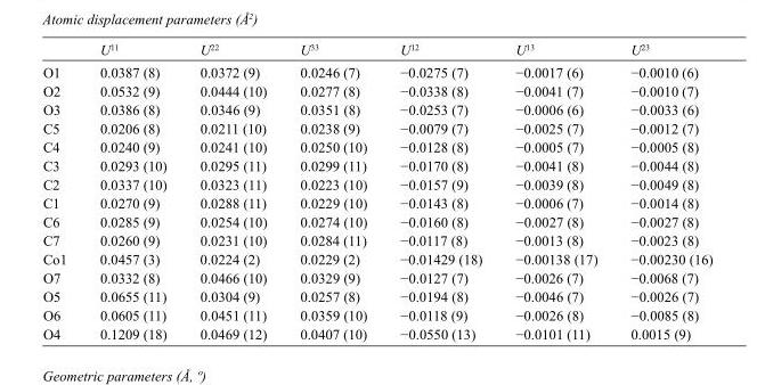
<table><thead><tr><td></td><td>U<sup>11</sup></td><td>U<sup>22</sup></td><td>U<sup>33</sup></td><td>U<sup>12</sup></td><td>U<sup>13</sup></td><td>U<sup>23</sup></td></tr></thead><tbody><tr><td>O1</td><td>0.0387 (8)</td><td>0.0372 (9)</td><td>0.0246 (7)</td><td>−0.0275 (7)</td><td>−0.0017 (6)</td><td>−0.0010 (6)</td></tr><tr><td>O2</td><td>0.0532 (9)</td><td>0.0444 (10)</td><td>0.0277 (8)</td><td>−0.0338 (8)</td><td>−0.0041 (7)</td><td>−0.0010 (7)</td></tr><tr><td>O3</td><td>0.0386 (8)</td><td>0.0346 (9)</td><td>0.0351 (8)</td><td>−0.0253 (7)</td><td>−0.0006 (6)</td><td>−0.0033 (6)</td></tr><tr><td>C5</td><td>0.0206 (8)</td><td>0.0211 (10)</td><td>0.0238 (9)</td><td>−0.0079 (7)</td><td>−0.0025 (7)</td><td>−0.0012 (7)</td></tr><tr><td>C4</td><td>0.0240 (9)</td><td>0.0241 (10)</td><td>0.0250 (10)</td><td>−0.0128 (8)</td><td>−0.0005 (7)</td><td>−0.0005 (8)</td></tr><tr><td>C3</td><td>0.0293 (10)</td><td>0.0295 (11)</td><td>0.0299 (11)</td><td>−0.0170 (8)</td><td>−0.0041 (8)</td><td>−0.0044 (8)</td></tr><tr><td>C2</td><td>0.0337 (10)</td><td>0.0323 (11)</td><td>0.0223 (10)</td><td>−0.0157 (9)</td><td>−0.0039 (8)</td><td>−0.0049 (8)</td></tr><tr><td>C1</td><td>0.0270 (9)</td><td>0.0288 (11)</td><td>0.0229 (10)</td><td>−0.0143 (8)</td><td>−0.0006 (7)</td><td>−0.0014 (8)</td></tr><tr><td>C6</td><td>0.0285 (9)</td><td>0.0254 (10)</td><td>0.0274 (10)</td><td>−0.0160 (8)</td><td>−0.0027 (8)</td><td>−0.0027 (8)</td></tr><tr><td>C7</td><td>0.0260 (9)</td><td>0.0231 (10)</td><td>0.0284 (11)</td><td>−0.0117 (8)</td><td>−0.0013 (8)</td><td>−0.0023 (8)</td></tr><tr><td>Co1</td><td>0.0457 (3)</td><td>0.0224 (2)</td><td>0.0229 (2)</td><td>−0.01429 (18)</td><td>−0.00138 (17)</td><td>−0.00230 (16)</td></tr><tr><td>O7</td><td>0.0332 (8)</td><td>0.0466 (10)</td><td>0.0329 (9)</td><td>−0.0127 (7)</td><td>−0.0026 (7)</td><td>−0.0068 (7)</td></tr><tr><td>O5</td><td>0.0655 (11)</td><td>0.0304 (9)</td><td>0.0257 (8)</td><td>−0.0194 (8)</td><td>−0.0046 (7)</td><td>−0.0026 (7)</td></tr><tr><td>O6</td><td>0.0605 (11)</td><td>0.0451 (11)</td><td>0.0359 (10)</td><td>−0.0118 (9)</td><td>−0.0026 (8)</td><td>−0.0085 (8)</td></tr><tr><td>O4</td><td>0.1209 (18)</td><td>0.0469 (12)</td><td>0.0407 (10)</td><td>−0.0550 (13)</td><td>−0.0101 (11)</td><td>0.0015 (9)</td></tr></tbody></table>